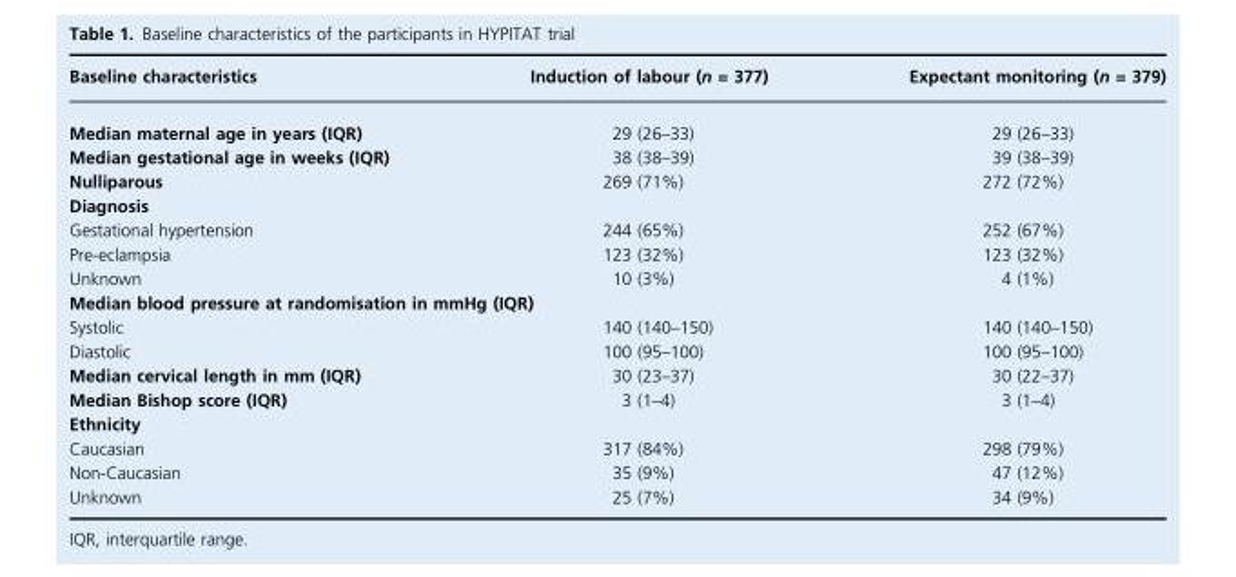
<table><thead><tr><td>Baseline characteristics</td><td>Induction of labour (n = 377)</td><td>Expectant monitoring (n = 379)</td></tr></thead><tbody><tr><td>Median maternal age in years (IQR)</td><td>29 (26–33)</td><td>29 (26–33)</td></tr><tr><td>Median gestational age in weeks (IQR)</td><td>38 (38–39)</td><td>39 (38–39)</td></tr><tr><td>Nulliparous</td><td>269 (71%)</td><td>272 (72%)</td></tr><tr><td colspan="3">Diagnosis</td></tr><tr><td>Gestational hypertension</td><td>244 (65%)</td><td>252 (67%)</td></tr><tr><td>Pre-eclampsia</td><td>123 (32%)</td><td>123 (32%)</td></tr><tr><td>Unknown</td><td>10 (3%)</td><td>4 (1%)</td></tr><tr><td colspan="3">Median blood pressure at randomisation in mmHg (IQR)</td></tr><tr><td>Systolic</td><td>140 (140–150)</td><td>140 (140–150)</td></tr><tr><td>Diastolic</td><td>100 (95–100)</td><td>100 (95–100)</td></tr><tr><td>Median cervical length in mm (IQR)</td><td>30 (23–37)</td><td>30 (22–37)</td></tr><tr><td>Median Bishop score (IQR)</td><td>3 (1–4)</td><td>3 (1–4)</td></tr><tr><td colspan="3">Ethnicity</td></tr><tr><td>Caucasian</td><td>317 (84%)</td><td>298 (79%)</td></tr><tr><td>Non-Caucasian</td><td>35 (9%)</td><td>47 (12%)</td></tr><tr><td>Unknown</td><td>25 (7%)</td><td>34 (9%)</td></tr></tbody></table>